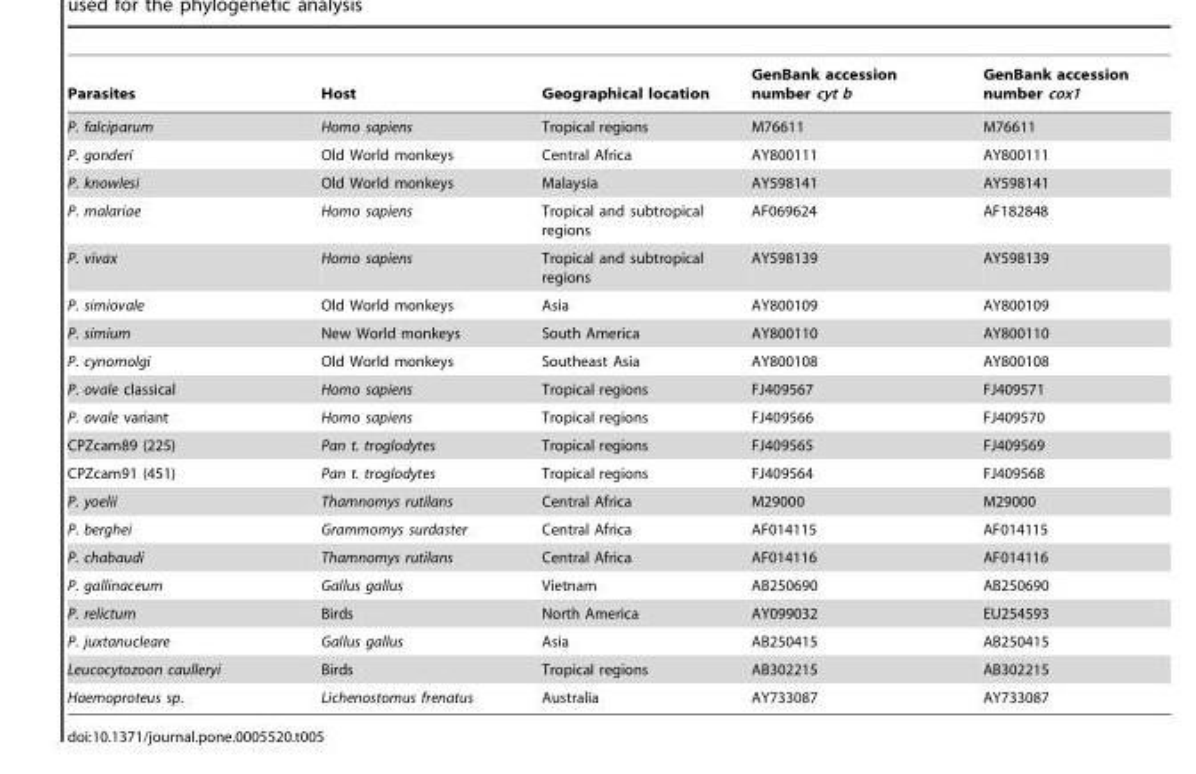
<table><thead><tr><td>Parasites</td><td>Host</td><td>Geographical location</td><td>GenBank accession number cyt b</td><td>GenBank accession number cox1</td></tr></thead><tbody><tr><td>P. falciparum</td><td>Homo sapiens</td><td>Tropical regions</td><td>M76611</td><td>M76611</td></tr><tr><td>P. gonderi</td><td>Old World monkeys</td><td>Central Africa</td><td>AY800111</td><td>AY800111</td></tr><tr><td>P. knowlesi</td><td>Old World monkeys</td><td>Malaysia</td><td>AY598141</td><td>AY598141</td></tr><tr><td>P. malariae</td><td>Homo sapiens</td><td>Tropical and subtropical regions</td><td>AF069624</td><td>AF182848</td></tr><tr><td>P. vivax</td><td>Homo sapiens</td><td>Tropical and subtropical regions</td><td>AY598139</td><td>AY598139</td></tr><tr><td>P. simiovale</td><td>Old World monkeys</td><td>Asia</td><td>AY800109</td><td>AY800109</td></tr><tr><td>P. simium</td><td>New World monkeys</td><td>South America</td><td>AY800110</td><td>AY800110</td></tr><tr><td>P. cynomolgi</td><td>Old World monkeys</td><td>Southeast Asia</td><td>AY800108</td><td>AY800108</td></tr><tr><td>P. ovale classical</td><td>Homo sapiens</td><td>Tropical regions</td><td>FJ409567</td><td>FJ409571</td></tr><tr><td>P. ovale variant</td><td>Homo sapiens</td><td>Tropical regions</td><td>FJ409566</td><td>FJ409570</td></tr><tr><td>CPZcam89 (225)</td><td>Pan t. troglodytes</td><td>Tropical regions</td><td>FJ409565</td><td>FJ409569</td></tr><tr><td>CPZcam91 (451)</td><td>Pan t. troglodytes</td><td>Tropical regions</td><td>FJ409564</td><td>FJ409568</td></tr><tr><td>P. yoelii</td><td>Thamnomys rutilans</td><td>Central Africa</td><td>M29000</td><td>M29000</td></tr><tr><td>P. berghei</td><td>Grammomys surdaster</td><td>Central Africa</td><td>AF014115</td><td>AF014115</td></tr><tr><td>P. chabaudi</td><td>Thamnomys rutilans</td><td>Central Africa</td><td>AF014116</td><td>AF014116</td></tr><tr><td>P. gallinaceum</td><td>Gallus gallus</td><td>Vietnam</td><td>AB250690</td><td>AB250690</td></tr><tr><td>P. relictum</td><td>Birds</td><td>North America</td><td>AY099032</td><td>EU254593</td></tr><tr><td>P. juxtanucleare</td><td>Gallus gallus</td><td>Asia</td><td>AB250415</td><td>AB250415</td></tr><tr><td>Leucocytozoon caulleryi</td><td>Birds</td><td>Tropical regions</td><td>AB302215</td><td>AB302215</td></tr><tr><td>Haemoproteus sp.</td><td>Lichenostomus frenatus</td><td>Australia</td><td>AY733087</td><td>AY733087</td></tr></tbody></table>